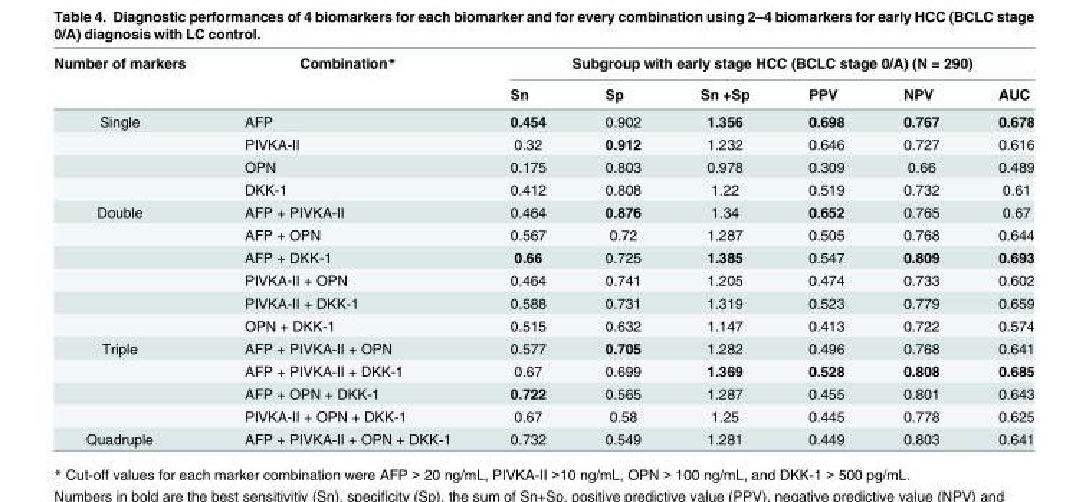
<table><thead><tr><td rowspan="2">Number of markers</td><td rowspan="2">Combination*</td><td colspan="6">Subgroup with early stage HCC (BCLC stage 0/A) (N = 290)</td></tr><tr><td>Sn</td><td>Sp</td><td>Sn +Sp</td><td>PPV</td><td>NPV</td><td>AUC</td></tr></thead><tbody><tr><td rowspan="4">Single</td><td>AFP</td><td>0.454</td><td>0.902</td><td>1.356</td><td>0.698</td><td>0.767</td><td>0.678</td></tr><tr><td>PIVKA-II</td><td>0.32</td><td>0.912</td><td>1.232</td><td>0.646</td><td>0.727</td><td>0.616</td></tr><tr><td>OPN</td><td>0.175</td><td>0.803</td><td>0.978</td><td>0.309</td><td>0.66</td><td>0.489</td></tr><tr><td>DKK-1</td><td>0.412</td><td>0.808</td><td>1.22</td><td>0.519</td><td>0.732</td><td>0.61</td></tr><tr><td rowspan="6">Double</td><td>AFP + PIVKA-II</td><td>0.464</td><td>0.876</td><td>1.34</td><td>0.652</td><td>0.765</td><td>0.67</td></tr><tr><td>AFP + OPN</td><td>0.567</td><td>0.72</td><td>1.287</td><td>0.505</td><td>0.768</td><td>0.644</td></tr><tr><td>AFP + DKK-1</td><td>0.66</td><td>0.725</td><td>1.385</td><td>0.547</td><td>0.809</td><td>0.693</td></tr><tr><td>PIVKA-II + OPN</td><td>0.464</td><td>0.741</td><td>1.205</td><td>0.474</td><td>0.733</td><td>0.602</td></tr><tr><td>PIVKA-II + DKK-1</td><td>0.588</td><td>0.731</td><td>1.319</td><td>0.523</td><td>0.779</td><td>0.659</td></tr><tr><td>OPN + DKK-1</td><td>0.515</td><td>0.632</td><td>1.147</td><td>0.413</td><td>0.722</td><td>0.574</td></tr><tr><td rowspan="4">Triple</td><td>AFP + PIVKA-II + OPN</td><td>0.577</td><td>0.705</td><td>1.282</td><td>0.496</td><td>0.768</td><td>0.641</td></tr><tr><td>AFP + PIVKA-II + DKK-1</td><td>0.67</td><td>0.699</td><td>1.369</td><td>0.528</td><td>0.808</td><td>0.685</td></tr><tr><td>AFP + OPN + DKK-1</td><td>0.722</td><td>0.565</td><td>1.287</td><td>0.455</td><td>0.801</td><td>0.643</td></tr><tr><td>PIVKA-II + OPN + DKK-1</td><td>0.67</td><td>0.58</td><td>1.25</td><td>0.445</td><td>0.778</td><td>0.625</td></tr><tr><td>Quadruple</td><td>AFP + PIVKA-II + OPN + DKK-1</td><td>0.732</td><td>0.549</td><td>1.281</td><td>0.449</td><td>0.803</td><td>0.641</td></tr></tbody></table>